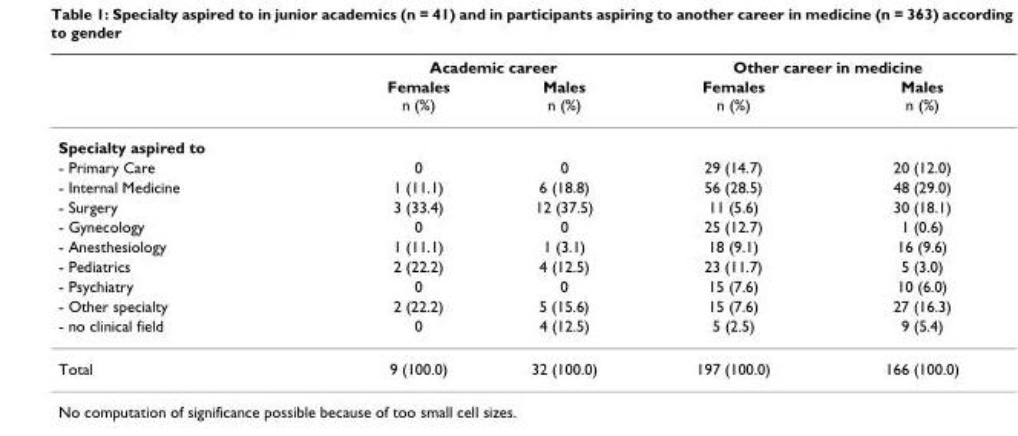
<table><thead><tr><td rowspan="2"></td><td colspan="2">Academic career</td><td colspan="2">Other career in medicine</td></tr><tr><td>Females n (%)</td><td>Males n (%)</td><td>Females n (%)</td><td>Males n (%)</td></tr></thead><tbody><tr><td colspan="5">Specialty aspired to</td></tr><tr><td>- Primary Care</td><td>0</td><td>0</td><td>29 (14.7)</td><td>20 (12.0)</td></tr><tr><td>- Internal Medicine</td><td>1 (11.1)</td><td>6 (18.8)</td><td>56 (28.5)</td><td>48 (29.0)</td></tr><tr><td>- Surgery</td><td>3 (33.4)</td><td>12 (37.5)</td><td>11 (5.6)</td><td>30 (18.1)</td></tr><tr><td>- Gynecology</td><td>0</td><td>0</td><td>25 (12.7)</td><td>1 (0.6)</td></tr><tr><td>- Anesthesiology</td><td>1 (11.1)</td><td>1 (3.1)</td><td>18 (9.1)</td><td>16 (9.6)</td></tr><tr><td>- Pediatrics</td><td>2 (22.2)</td><td>4 (12.5)</td><td>23 (11.7)</td><td>5 (3.0)</td></tr><tr><td>- Psychiatry</td><td>0</td><td>0</td><td>15 (7.6)</td><td>10 (6.0)</td></tr><tr><td>- Other specialty</td><td>2 (22.2)</td><td>5 (15.6)</td><td>15 (7.6)</td><td>27 (16.3)</td></tr><tr><td>- no clinical field</td><td>0</td><td>4 (12.5)</td><td>5 (2.5)</td><td>9 (5.4)</td></tr><tr><td>Total</td><td>9 (100.0)</td><td>32 (100.0)</td><td>197 (100.0)</td><td>166 (100.0)</td></tr></tbody></table>